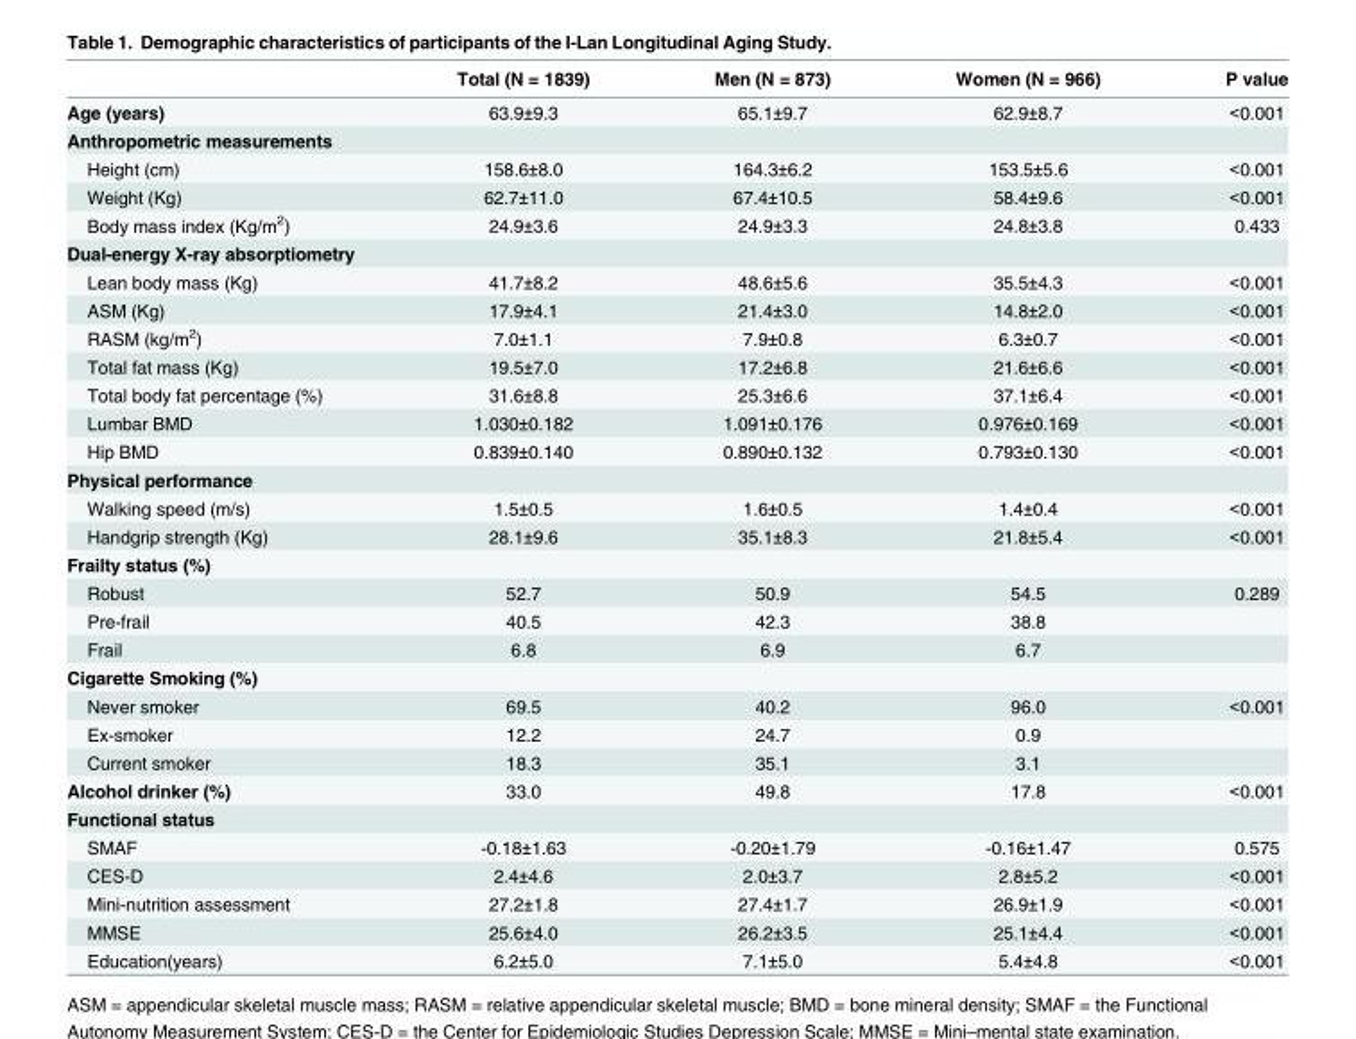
<table><thead><tr><td></td><td>Total (N = 1839)</td><td>Men (N = 873)</td><td>Women (N = 966)</td><td>P value</td></tr></thead><tbody><tr><td>Age (years)</td><td>63.9±9.3</td><td>65.1±9.7</td><td>62.9±8.7</td><td>&lt;0.001</td></tr><tr><td colspan="5">Anthropometric measurements</td></tr><tr><td>Height (cm)</td><td>158.6±8.0</td><td>164.3±6.2</td><td>153.5±5.6</td><td>&lt;0.001</td></tr><tr><td>Weight (Kg)</td><td>62.7±11.0</td><td>67.4±10.5</td><td>58.4±9.6</td><td>&lt;0.001</td></tr><tr><td>Body mass index (Kg/m<sup>2</sup>)</td><td>24.9±3.6</td><td>24.9±3.3</td><td>24.8±3.8</td><td>0.433</td></tr><tr><td colspan="5">Dual-energy X-ray absorptiometry</td></tr><tr><td>Lean body mass (Kg)</td><td>41.7±8.2</td><td>48.6±5.6</td><td>35.5±4.3</td><td>&lt;0.001</td></tr><tr><td>ASM (Kg)</td><td>17.9±4.1</td><td>21.4±3.0</td><td>14.8±2.0</td><td>&lt;0.001</td></tr><tr><td>RASM (kg/m<sup>2</sup>)</td><td>7.0±1.1</td><td>7.9±0.8</td><td>6.3±0.7</td><td>&lt;0.001</td></tr><tr><td>Total fat mass (Kg)</td><td>19.5±7.0</td><td>17.2±6.8</td><td>21.6±6.6</td><td>&lt;0.001</td></tr><tr><td>Total body fat percentage (%)</td><td>31.6±8.8</td><td>25.3±6.6</td><td>37.1±6.4</td><td>&lt;0.001</td></tr><tr><td>Lumbar BMD</td><td>1.030±0.182</td><td>1.091±0.176</td><td>0.976±0.169</td><td>&lt;0.001</td></tr><tr><td>Hip BMD</td><td>0.839±0.140</td><td>0.890±0.132</td><td>0.793±0.130</td><td>&lt;0.001</td></tr><tr><td colspan="5">Physical performance</td></tr><tr><td>Walking speed (m/s)</td><td>1.5±0.5</td><td>1.6±0.5</td><td>1.4±0.4</td><td>&lt;0.001</td></tr><tr><td>Handgrip strength (Kg)</td><td>28.1±9.6</td><td>35.1±8.3</td><td>21.8±5.4</td><td>&lt;0.001</td></tr><tr><td colspan="5">Frailty status (%)</td></tr><tr><td>Robust</td><td>52.7</td><td>50.9</td><td>54.5</td><td>0.289</td></tr><tr><td>Pre-frail</td><td>40.5</td><td>42.3</td><td>38.8</td><td></td></tr><tr><td>Frail</td><td>6.8</td><td>6.9</td><td>6.7</td><td></td></tr><tr><td colspan="5">Cigarette Smoking (%)</td></tr><tr><td>Never smoker</td><td>69.5</td><td>40.2</td><td>96.0</td><td>&lt;0.001</td></tr><tr><td>Ex-smoker</td><td>12.2</td><td>24.7</td><td>0.9</td><td></td></tr><tr><td>Current smoker</td><td>18.3</td><td>35.1</td><td>3.1</td><td></td></tr><tr><td>Alcohol drinker (%)</td><td>33.0</td><td>49.8</td><td>17.8</td><td>&lt;0.001</td></tr><tr><td colspan="5">Functional status</td></tr><tr><td>SMAF</td><td>-0.18±1.63</td><td>-0.20±1.79</td><td>-0.16±1.47</td><td>0.575</td></tr><tr><td>CES-D</td><td>2.4±4.6</td><td>2.0±3.7</td><td>2.8±5.2</td><td>&lt;0.001</td></tr><tr><td>Mini-nutrition assessment</td><td>27.2±1.8</td><td>27.4±1.7</td><td>26.9±1.9</td><td>&lt;0.001</td></tr><tr><td>MMSE</td><td>25.6±4.0</td><td>26.2±3.5</td><td>25.1±4.4</td><td>&lt;0.001</td></tr><tr><td>Education(years)</td><td>6.2±5.0</td><td>7.1±5.0</td><td>5.4±4.8</td><td>&lt;0.001</td></tr></tbody></table>